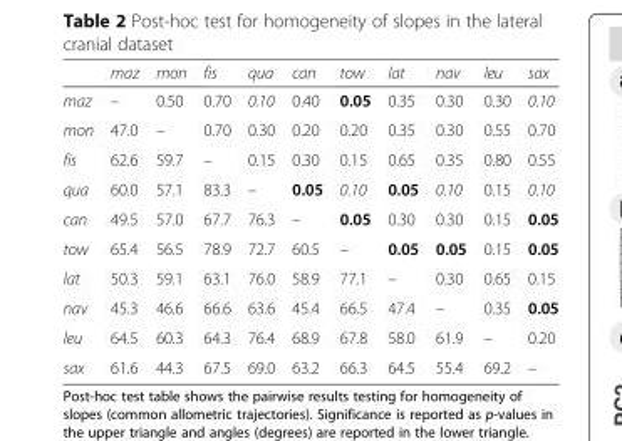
<table><thead><tr><td></td><td>maz</td><td>mon</td><td>fis</td><td>qua</td><td>can</td><td>tow</td><td>lat</td><td>nav</td><td>leu</td><td>sax</td></tr></thead><tbody><tr><td>maz</td><td>–</td><td>0.50</td><td>0.70</td><td>0.10</td><td>0.40</td><td>0.05</td><td>0.35</td><td>0.30</td><td>0.30</td><td>0.10</td></tr><tr><td>mon</td><td>47.0</td><td>–</td><td>0.70</td><td>0.30</td><td>0.20</td><td>0.20</td><td>0.35</td><td>0.30</td><td>0.55</td><td>0.70</td></tr><tr><td>fis</td><td>62.6</td><td>59.7</td><td>–</td><td>0.15</td><td>0.30</td><td>0.15</td><td>0.65</td><td>0.35</td><td>0.80</td><td>0.55</td></tr><tr><td>qua</td><td>60.0</td><td>57.1</td><td>83.3</td><td>–</td><td>0.05</td><td>0.10</td><td>0.05</td><td>0.10</td><td>0.15</td><td>0.10</td></tr><tr><td>can</td><td>49.5</td><td>57.0</td><td>67.7</td><td>76.3</td><td>–</td><td>0.05</td><td>0.30</td><td>0.30</td><td>0.15</td><td>0.05</td></tr><tr><td>tow</td><td>65.4</td><td>56.5</td><td>78.9</td><td>72.7</td><td>60.5</td><td>–</td><td>0.05</td><td>0.05</td><td>0.15</td><td>0.05</td></tr><tr><td>lat</td><td>50.3</td><td>59.1</td><td>63.1</td><td>76.0</td><td>58.9</td><td>77.1</td><td>–</td><td>0.30</td><td>0.65</td><td>0.15</td></tr><tr><td>nav</td><td>45.3</td><td>46.6</td><td>66.6</td><td>63.6</td><td>45.4</td><td>66.5</td><td>47.4</td><td>–</td><td>0.35</td><td>0.05</td></tr><tr><td>leu</td><td>64.5</td><td>60.3</td><td>64.3</td><td>76.4</td><td>68.9</td><td>67.8</td><td>58.0</td><td>61.9</td><td>–</td><td>0.20</td></tr><tr><td>sax</td><td>61.6</td><td>44.3</td><td>67.5</td><td>69.0</td><td>63.2</td><td>66.3</td><td>64.5</td><td>55.4</td><td>69.2</td><td>–</td></tr></tbody></table>